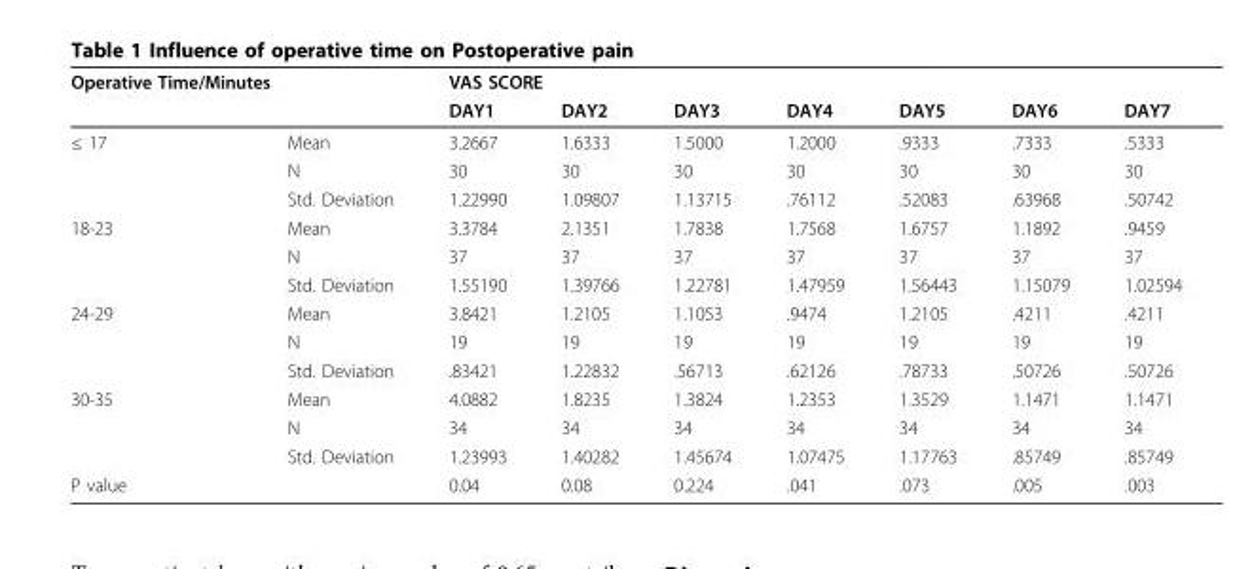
<table><thead><tr><td rowspan="2">Operative Time/Minutes</td><td rowspan="2"></td><td colspan="7">VAS SCORE</td></tr><tr><td>DAY1</td><td>DAY2</td><td>DAY3</td><td>DAY4</td><td>DAY5</td><td>DAY6</td><td>DAY7</td></tr></thead><tbody><tr><td rowspan="3">≤ 17</td><td>Mean</td><td>3.2667</td><td>1.6333</td><td>1.5000</td><td>1.2000</td><td>.9333</td><td>.7333</td><td>.5333</td></tr><tr><td>N</td><td>30</td><td>30</td><td>30</td><td>30</td><td>30</td><td>30</td><td>30</td></tr><tr><td>Std. Deviation</td><td>1.22990</td><td>1.09807</td><td>1.13715</td><td>.76112</td><td>.52083</td><td>.63968</td><td>.50742</td></tr><tr><td rowspan="3">18-23</td><td>Mean</td><td>3.3784</td><td>2.1351</td><td>1.7838</td><td>1.7568</td><td>1.6757</td><td>1.1892</td><td>.9459</td></tr><tr><td>N</td><td>37</td><td>37</td><td>37</td><td>37</td><td>37</td><td>37</td><td>37</td></tr><tr><td>Std. Deviation</td><td>1.55190</td><td>1.39766</td><td>1.22781</td><td>1.47959</td><td>1.56443</td><td>1.15079</td><td>1.02594</td></tr><tr><td rowspan="3">24-29</td><td>Mean</td><td>3.8421</td><td>1.2105</td><td>1.1053</td><td>.9474</td><td>1.2105</td><td>.4211</td><td>.4211</td></tr><tr><td>N</td><td>19</td><td>19</td><td>19</td><td>19</td><td>19</td><td>19</td><td>19</td></tr><tr><td>Std. Deviation</td><td>.83421</td><td>1.22832</td><td>.56713</td><td>.62126</td><td>.78733</td><td>.50726</td><td>.50726</td></tr><tr><td rowspan="3">30-35</td><td>Mean</td><td>4.0882</td><td>1.8235</td><td>1.3824</td><td>1.2353</td><td>1.3529</td><td>1.1471</td><td>1.1471</td></tr><tr><td>N</td><td>34</td><td>34</td><td>34</td><td>34</td><td>34</td><td>34</td><td>34</td></tr><tr><td>Std. Deviation</td><td>1.23993</td><td>1.40282</td><td>1.45674</td><td>1.07475</td><td>1.17763</td><td>.85749</td><td>.85749</td></tr><tr><td>P value</td><td></td><td>0.04</td><td>0.08</td><td>0.224</td><td>.041</td><td>.073</td><td>.005</td><td>.003</td></tr></tbody></table>